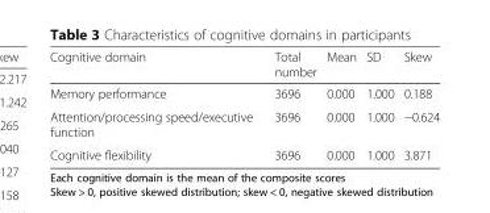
<table><thead><tr><td>Cognitive domain</td><td>Total number</td><td>Mean</td><td>SD</td><td>Skew</td></tr></thead><tbody><tr><td>Memory performance</td><td>3696</td><td>0.000</td><td>1.000</td><td>0.188</td></tr><tr><td>Attention/processing speed/executive function</td><td>3696</td><td>0.000</td><td>1.000</td><td>−0.624</td></tr><tr><td>Cognitive flexibility</td><td>3696</td><td>0.000</td><td>1.000</td><td>3.871</td></tr></tbody></table>